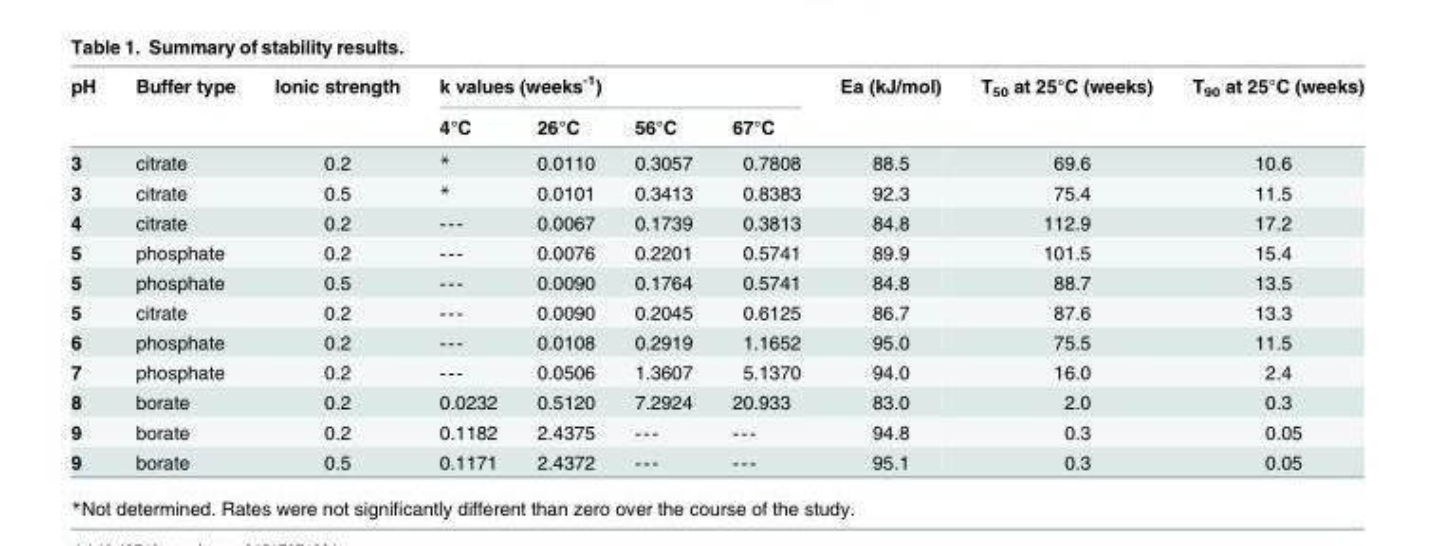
<table><thead><tr><td rowspan="2">pH</td><td rowspan="2">Buffer type</td><td rowspan="2">Ionic strength</td><td colspan="4">k values (weeks<sup>-1</sup>)</td><td rowspan="2">Ea (kJ/mol)</td><td rowspan="2">T<sub>50</sub> at 25°C (weeks)</td><td rowspan="2">T<sub>90</sub> at 25°C (weeks)</td></tr><tr><td>4°C</td><td>26°C</td><td>56°C</td><td>67°C</td></tr></thead><tbody><tr><td>3</td><td>citrate</td><td>0.2</td><td>*</td><td>0.0110</td><td>0.3057</td><td>0.7808</td><td>88.5</td><td>69.6</td><td>10.6</td></tr><tr><td>3</td><td>citrate</td><td>0.5</td><td>*</td><td>0.0101</td><td>0.3413</td><td>0.8383</td><td>92.3</td><td>75.4</td><td>11.5</td></tr><tr><td>4</td><td>citrate</td><td>0.2</td><td>---</td><td>0.0067</td><td>0.1739</td><td>0.3813</td><td>84.8</td><td>112.9</td><td>17.2</td></tr><tr><td>5</td><td>phosphate</td><td>0.2</td><td>---</td><td>0.0076</td><td>0.2201</td><td>0.5741</td><td>89.9</td><td>101.5</td><td>15.4</td></tr><tr><td>5</td><td>phosphate</td><td>0.5</td><td>---</td><td>0.0090</td><td>0.1764</td><td>0.5741</td><td>84.8</td><td>88.7</td><td>13.5</td></tr><tr><td>5</td><td>citrate</td><td>0.2</td><td>---</td><td>0.0090</td><td>0.2045</td><td>0.6125</td><td>86.7</td><td>87.6</td><td>13.3</td></tr><tr><td>6</td><td>phosphate</td><td>0.2</td><td>---</td><td>0.0108</td><td>0.2919</td><td>1.1652</td><td>95.0</td><td>75.5</td><td>11.5</td></tr><tr><td>7</td><td>phosphate</td><td>0.2</td><td>---</td><td>0.0506</td><td>1.3607</td><td>5.1370</td><td>94.0</td><td>16.0</td><td>2.4</td></tr><tr><td>8</td><td>borate</td><td>0.2</td><td>0.0232</td><td>0.5120</td><td>7.2924</td><td>20.933</td><td>83.0</td><td>2.0</td><td>0.3</td></tr><tr><td>9</td><td>borate</td><td>0.2</td><td>0.1182</td><td>2.4375</td><td>---</td><td>---</td><td>94.8</td><td>0.3</td><td>0.05</td></tr><tr><td>9</td><td>borate</td><td>0.5</td><td>0.1171</td><td>2.4372</td><td>---</td><td>---</td><td>95.1</td><td>0.3</td><td>0.05</td></tr></tbody></table>